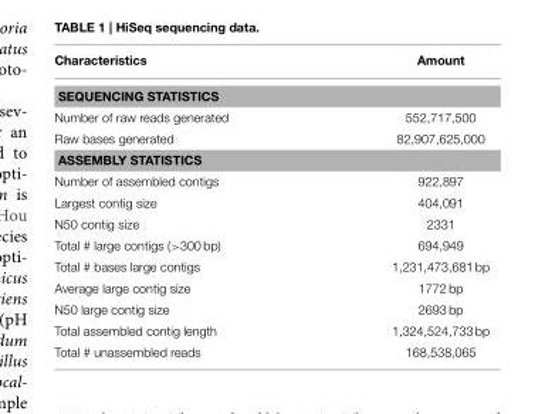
<table><thead><tr><td>Characteristics</td><td>Amount</td></tr></thead><tbody><tr><td colspan="2">SEQUENCING STATISTICS</td></tr><tr><td>Number of raw reads generated</td><td>552,717,500</td></tr><tr><td>Raw bases generated</td><td>82,907,625,000</td></tr><tr><td colspan="2">ASSEMBLY STATISTICS</td></tr><tr><td>Number of assembled contigs</td><td>922,897</td></tr><tr><td>Largest contig size</td><td>404,091</td></tr><tr><td>N50 contig size</td><td>2331</td></tr><tr><td>Total # large contigs (&gt;300 bp)</td><td>694,949</td></tr><tr><td>Total # bases large contigs</td><td>1,231,473,681 bp</td></tr><tr><td>Average large contig size</td><td>1772 bp</td></tr><tr><td>N50 large contig size</td><td>2693 bp</td></tr><tr><td>Total assembled contig length</td><td>1,324,524,733 bp</td></tr><tr><td>Total # unassembled reads</td><td>168,538,065</td></tr></tbody></table>